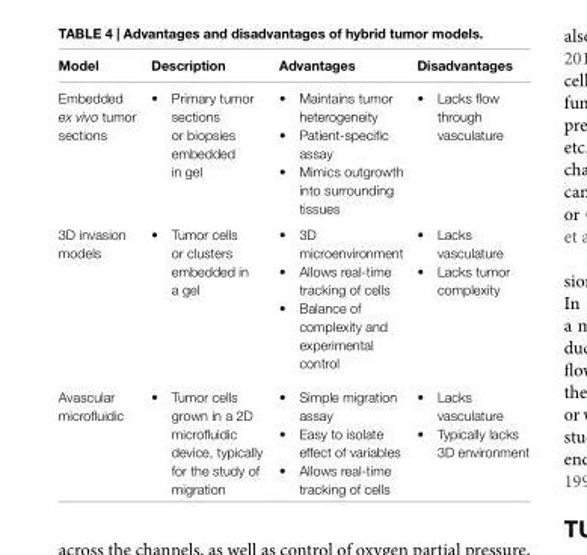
<table><thead><tr><td>Model</td><td>Description</td><td>Advantages</td><td>Disadvantages</td></tr></thead><tbody><tr><td>Embedded ex vivo tumor sections</td><td>• Primary tumor sections or biopsies embedded in gel</td><td>• Maintains tumor heterogeneity • Patient-specific assay • Mimics outgrowth into surrounding tissues</td><td>• Lacks flow through vasculature</td></tr><tr><td>3D invasion models</td><td>• Tumor cells or clusters embedded in a gel</td><td>• 3D microenvironment • Allows real-time tracking of cells • Balance of complexity and experimental control</td><td>• Lacks vasculature • Lacks tumor complexity</td></tr><tr><td>Avascular microfluidic</td><td>• Tumor cells grown in a 2D microfluidic device, typically for the study of migration</td><td>• Simple migration assay • Easy to isolate effect of variables • Allows real-time tracking of cells</td><td>• Lacks vasculature • Typically lacks 3D environment</td></tr></tbody></table>